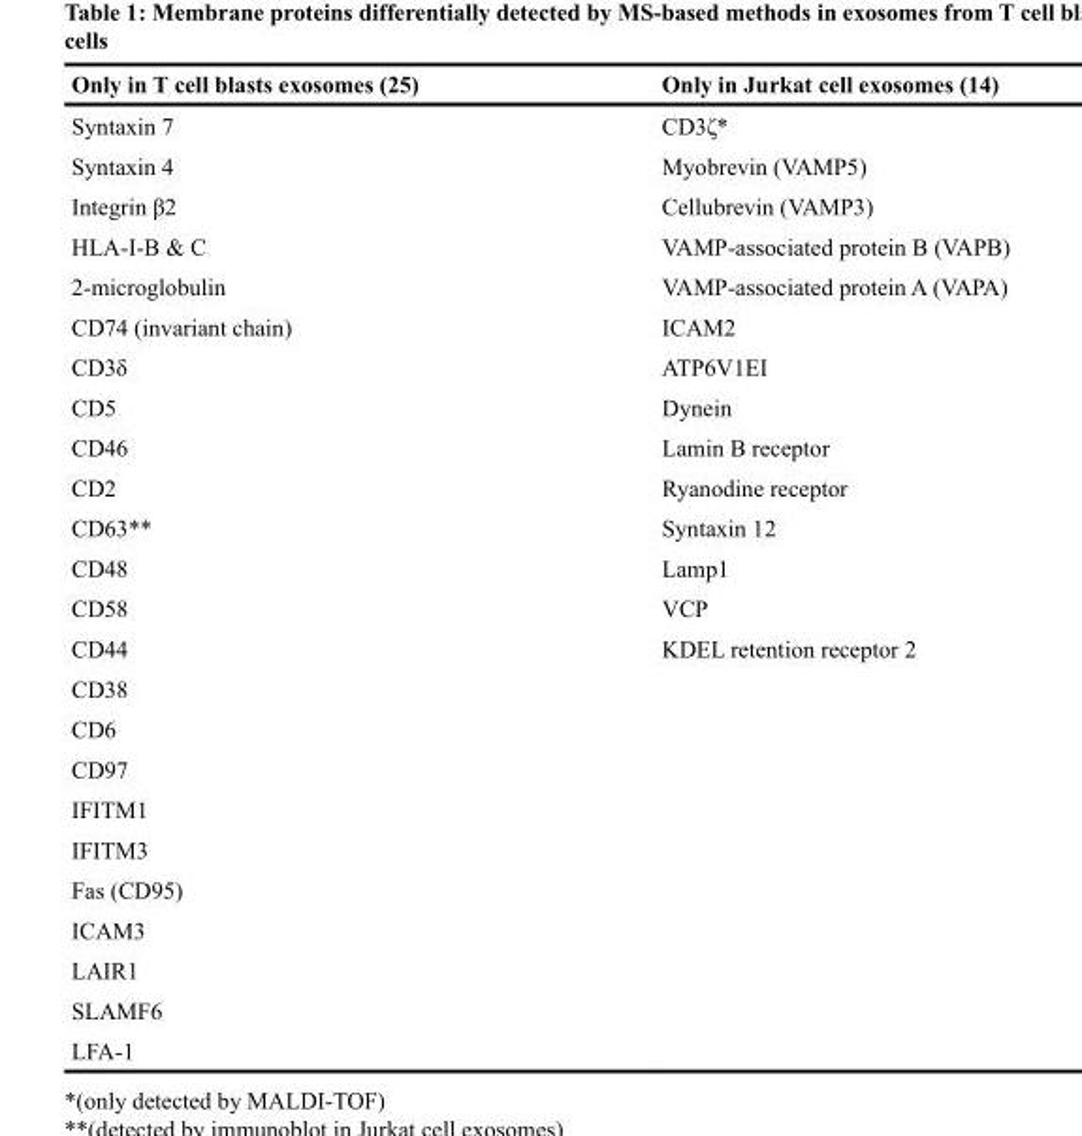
<table><thead><tr><td>Only in T cell blasts exosomes (25)</td><td>Only in Jurkat cell exosomes (14)</td></tr></thead><tbody><tr><td>Syntaxin 7</td><td>CD3ζ*</td></tr><tr><td>Syntaxin 4</td><td>Myobrevin (VAMP5)</td></tr><tr><td>Integrin β2</td><td>Cellubrevin (VAMP3)</td></tr><tr><td>HLA-I-B &amp; C</td><td>VAMP-associated protein B (VAPB)</td></tr><tr><td>2-microglobulin</td><td>VAMP-associated protein A (VAPA)</td></tr><tr><td>CD74 (invariant chain)</td><td>ICAM2</td></tr><tr><td>CD3δ</td><td>ATP6V1EI</td></tr><tr><td>CD5</td><td>Dynein</td></tr><tr><td>CD46</td><td>Lamin B receptor</td></tr><tr><td>CD2</td><td>Ryanodine receptor</td></tr><tr><td>CD63**</td><td>Syntaxin 12</td></tr><tr><td>CD48</td><td>Lamp1</td></tr><tr><td>CD58</td><td>VCP</td></tr><tr><td>CD44</td><td>KDEL retention receptor 2</td></tr><tr><td colspan="2">CD38</td></tr><tr><td colspan="2">CD6</td></tr><tr><td colspan="2">CD97</td></tr><tr><td colspan="2">IFITM1</td></tr><tr><td colspan="2">IFITM3</td></tr><tr><td colspan="2">Fas (CD95)</td></tr><tr><td colspan="2">ICAM3</td></tr><tr><td colspan="2">LAIR1</td></tr><tr><td colspan="2">SLAMF6</td></tr><tr><td>LFA-1</td><td></td></tr></tbody></table>